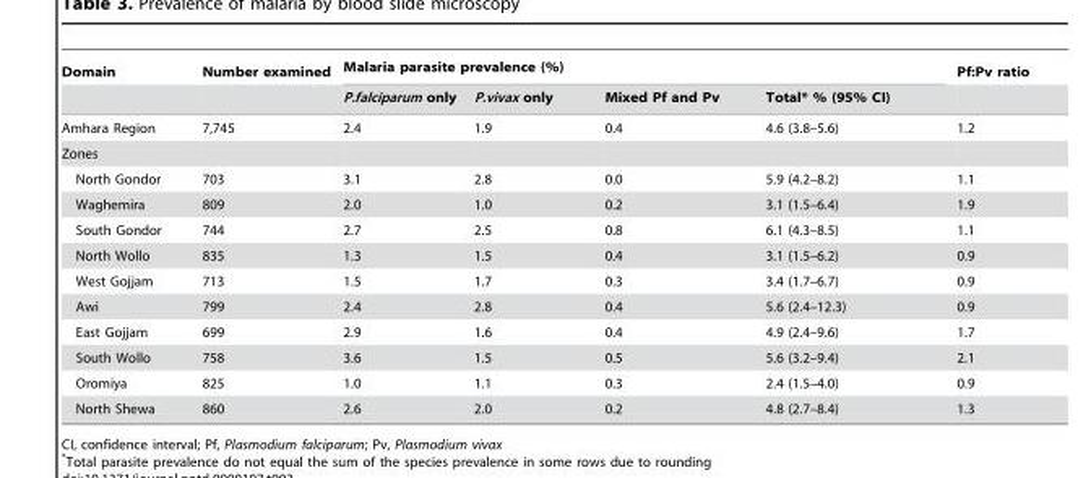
<table><thead><tr><td rowspan="2">Domain</td><td rowspan="2">Number examined</td><td colspan="4">Malaria parasite prevalence (%)</td><td rowspan="2">Pf:Pv ratio</td></tr><tr><td>P.falciparum only</td><td>P.vivax only</td><td>Mixed Pf and Pv</td><td>Total* % (95% CI)</td></tr></thead><tbody><tr><td>Amhara Region</td><td>7,745</td><td>2.4</td><td>1.9</td><td>0.4</td><td>4.6 (3.8–5.6)</td><td>1.2</td></tr><tr><td colspan="7">Zones</td></tr><tr><td>North Gondor</td><td>703</td><td>3.1</td><td>2.8</td><td>0.0</td><td>5.9 (4.2–8.2)</td><td>1.1</td></tr><tr><td>Waghemira</td><td>809</td><td>2.0</td><td>1.0</td><td>0.2</td><td>3.1 (1.5–6.4)</td><td>1.9</td></tr><tr><td>South Gondor</td><td>744</td><td>2.7</td><td>2.5</td><td>0.8</td><td>6.1 (4.3–8.5)</td><td>1.1</td></tr><tr><td>North Wollo</td><td>835</td><td>1.3</td><td>1.5</td><td>0.4</td><td>3.1 (1.5–6.2)</td><td>0.9</td></tr><tr><td>West Gojjam</td><td>713</td><td>1.5</td><td>1.7</td><td>0.3</td><td>3.4 (1.7–6.7)</td><td>0.9</td></tr><tr><td>Awi</td><td>799</td><td>2.4</td><td>2.8</td><td>0.4</td><td>5.6 (2.4–12.3)</td><td>0.9</td></tr><tr><td>East Gojjam</td><td>699</td><td>2.9</td><td>1.6</td><td>0.4</td><td>4.9 (2.4–9.6)</td><td>1.7</td></tr><tr><td>South Wollo</td><td>758</td><td>3.6</td><td>1.5</td><td>0.5</td><td>5.6 (3.2–9.4)</td><td>2.1</td></tr><tr><td>Oromiya</td><td>825</td><td>1.0</td><td>1.1</td><td>0.3</td><td>2.4 (1.5–4.0)</td><td>0.9</td></tr><tr><td>North Shewa</td><td>860</td><td>2.6</td><td>2.0</td><td>0.2</td><td>4.8 (2.7–8.4)</td><td>1.3</td></tr></tbody></table>